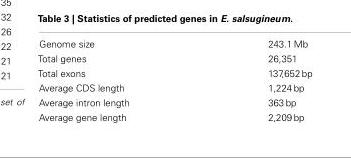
<table><tbody><tr><td>Genome size</td><td>243.1 Mb</td></tr><tr><td>Total genes</td><td>26,351</td></tr><tr><td>Total exons</td><td>137,652 bp</td></tr><tr><td>Average CDS length</td><td>1,224 bp</td></tr><tr><td>Average intron length</td><td>363 bp</td></tr><tr><td>Average gene length</td><td>2,209 bp</td></tr></tbody></table>